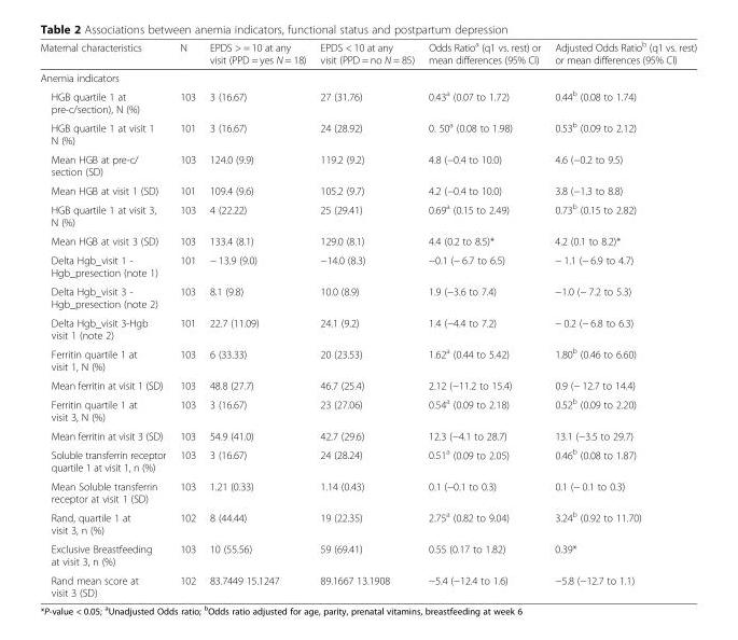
<table><thead><tr><td>Maternal characteristics</td><td>N</td><td>EPDS &gt; = 10 at any visit (PPD = yes N = 18)</td><td>EPDS &lt; 10 at any visit (PPD = no N = 85)</td><td>Odds Ratio<sup>a</sup> (q1 vs. rest) or mean differences (95% CI)</td><td>Adjusted Odds Ratio<sup>b</sup> (q1 vs. rest) or mean differences (95% CI)</td></tr></thead><tbody><tr><td colspan="6">Anemia indicators</td></tr><tr><td>HGB quartile 1 at pre-c/section), N (%)</td><td>103</td><td>3 (16.67)</td><td>27 (31.76)</td><td>0.43<sup>a</sup> (0.07 to 1.72)</td><td>0.44<sup>b</sup> (0.08 to 1.74)</td></tr><tr><td>HGB quartile 1 at visit 1 N (%)</td><td>101</td><td>3 (16.67)</td><td>24 (28.92)</td><td>0. 50<sup>a</sup> (0.08 to 1.98)</td><td>0.53<sup>b</sup> (0.09 to 2.12)</td></tr><tr><td>Mean HGB at pre-c/ section (SD)</td><td>103</td><td>124.0 (9.9)</td><td>119.2 (9.2)</td><td>4.8 (−0.4 to 10.0)</td><td>4.6 (−0.2 to 9.5)</td></tr><tr><td>Mean HGB at visit 1 (SD)</td><td>101</td><td>109.4 (9.6)</td><td>105.2 (9.7)</td><td>4.2 (−0.4 to 10.0)</td><td>3.8 (−1.3 to 8.8)</td></tr><tr><td>HGB quartile 1 at visit 3, N (%)</td><td>103</td><td>4 (22.22)</td><td>25 (29.41)</td><td>0.69<sup>a</sup> (0.15 to 2.49)</td><td>0.73<sup>b</sup> (0.15 to 2.82)</td></tr><tr><td>Mean HGB at visit 3 (SD)</td><td>103</td><td>133.4 (8.1)</td><td>129.0 (8.1)</td><td>4.4 (0.2 to 8.5)*</td><td>4.2 (0.1 to 8.2)*</td></tr><tr><td>Delta Hgb_visit 1 - Hgb_presection (note 1)</td><td>101</td><td>− 13.9 (9.0)</td><td>−14.0 (8.3)</td><td>−0.1 (− 6.7 to 6.5)</td><td>− 1.1 (− 6.9 to 4.7)</td></tr><tr><td>Delta Hgb_visit 3 - Hgb_presection (note 2)</td><td>103</td><td>8.1 (9.8)</td><td>10.0 (8.9)</td><td>1.9 (−3.6 to 7.4)</td><td>−1.0 (− 7.2 to 5.3)</td></tr><tr><td>Delta Hgb_visit 3-Hgb visit 1 (note 2)</td><td>101</td><td>22.7 (11.09)</td><td>24.1 (9.2)</td><td>1.4 (−4.4 to 7.2)</td><td>− 0.2 (− 6.8 to 6.3)</td></tr><tr><td>Ferritin quartile 1 at visit 1, N (%)</td><td>103</td><td>6 (33.33)</td><td>20 (23.53)</td><td>1.62<sup>a</sup> (0.44 to 5.42)</td><td>1.80<sup>b</sup> (0.46 to 6.60)</td></tr><tr><td>Mean ferritin at visit 1 (SD)</td><td>103</td><td>48.8 (27.7)</td><td>46.7 (25.4)</td><td>2.12 (−11.2 to 15.4)</td><td>0.9 (− 12.7 to 14.4)</td></tr><tr><td>Ferritin quartile 1 at visit 3, N (%)</td><td>103</td><td>3 (16.67)</td><td>23 (27.06)</td><td>0.54<sup>a</sup> (0.09 to 2.18)</td><td>0.52<sup>b</sup> (0.09 to 2.20)</td></tr><tr><td>Mean ferritin at visit 3 (SD)</td><td>103</td><td>54.9 (41.0)</td><td>42.7 (29.6)</td><td>12.3 (−4.1 to 28.7)</td><td>13.1 (−3.5 to 29.7)</td></tr><tr><td>Soluble transferrin receptor quartile 1 at visit 1, n (%)</td><td>103</td><td>3 (16.67)</td><td>24 (28.24)</td><td>0.51<sup>a</sup> (0.09 to 2.05)</td><td>0.46<sup>b</sup> (0.08 to 1.87)</td></tr><tr><td>Mean Soluble transferrin receptor at visit 1 (SD)</td><td>103</td><td>1.21 (0.33)</td><td>1.14 (0.43)</td><td>0.1 (−0.1 to 0.3)</td><td>0.1 (− 0.1 to 0.3)</td></tr><tr><td>Rand, quartile 1 at visit 3, n (%)</td><td>102</td><td>8 (44.44)</td><td>19 (22.35)</td><td>2.75<sup>a</sup> (0.82 to 9.04)</td><td>3.24<sup>b</sup> (0.92 to 11.70)</td></tr><tr><td>Exclusive Breastfeeding at visit 3, n (%)</td><td>103</td><td>10 (55.56)</td><td>59 (69.41)</td><td>0.55 (0.17 to 1.82)</td><td>0.39*</td></tr><tr><td>Rand mean score at visit 3 (SD)</td><td>102</td><td>83.7449 15.1247</td><td>89.1667 13.1908</td><td>−5.4 (−12.4 to 1.6)</td><td>−5.8 (−12.7 to 1.1)</td></tr></tbody></table>